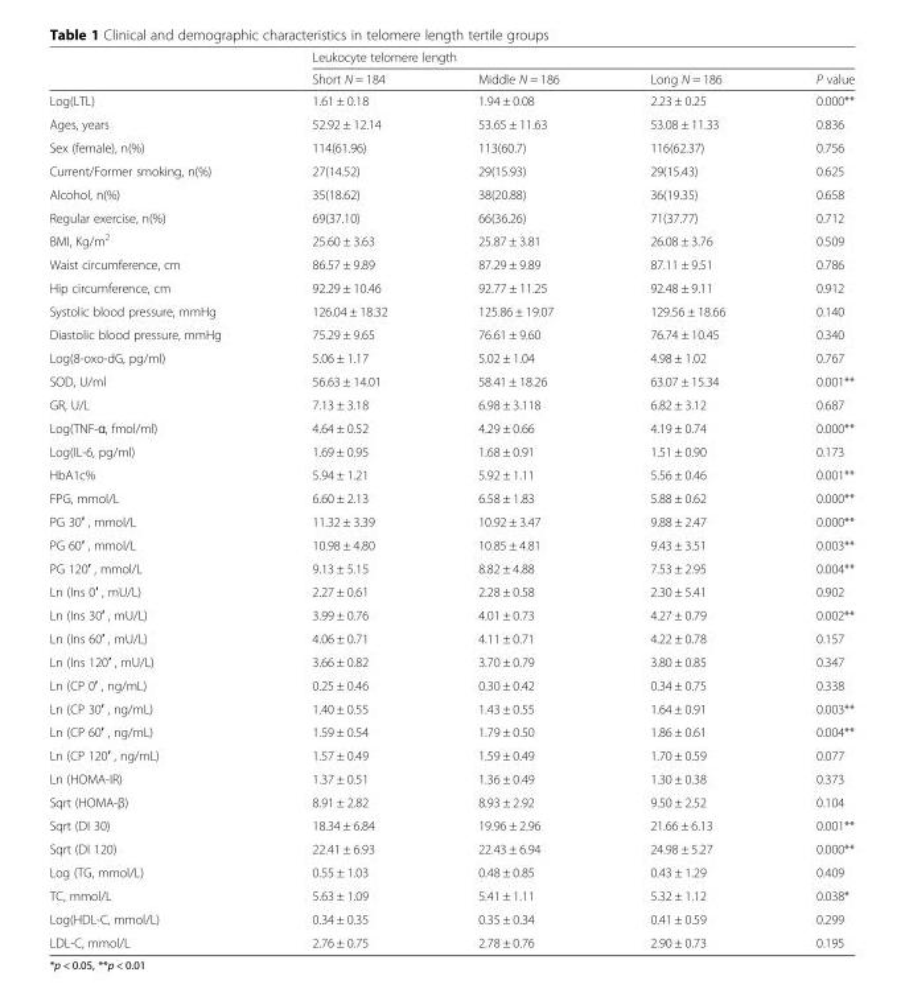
<table><thead><tr><td rowspan="2"></td><td colspan="4">Leukocyte telomere length</td></tr><tr><td>Short N = 184</td><td>Middle N = 186</td><td>Long N = 186</td><td>P value</td></tr></thead><tbody><tr><td>Log(LTL)</td><td>1.61 ± 0.18</td><td>1.94 ± 0.08</td><td>2.23 ± 0.25</td><td>0.000**</td></tr><tr><td>Ages, years</td><td>52.92 ± 12.14</td><td>53.65 ± 11.63</td><td>53.08 ± 11.33</td><td>0.836</td></tr><tr><td>Sex (female), n(%)</td><td>114(61.96)</td><td>113(60.7)</td><td>116(62.37)</td><td>0.756</td></tr><tr><td>Current/Former smoking, n(%)</td><td>27(14.52)</td><td>29(15.93)</td><td>29(15.43)</td><td>0.625</td></tr><tr><td>Alcohol, n(%)</td><td>35(18.62)</td><td>38(20.88)</td><td>36(19.35)</td><td>0.658</td></tr><tr><td>Regular exercise, n(%)</td><td>69(37.10)</td><td>66(36.26)</td><td>71(37.77)</td><td>0.712</td></tr><tr><td>BMI, Kg/m<sup>2</sup></td><td>25.60 ± 3.63</td><td>25.87 ± 3.81</td><td>26.08 ± 3.76</td><td>0.509</td></tr><tr><td>Waist circumference, cm</td><td>86.57 ± 9.89</td><td>87.29 ± 9.89</td><td>87.11 ± 9.51</td><td>0.786</td></tr><tr><td>Hip circumference, cm</td><td>92.29 ± 10.46</td><td>92.77 ± 11.25</td><td>92.48 ± 9.11</td><td>0.912</td></tr><tr><td>Systolic blood pressure, mmHg</td><td>126.04 ± 18.32</td><td>125.86 ± 19.07</td><td>129.56 ± 18.66</td><td>0.140</td></tr><tr><td>Diastolic blood pressure, mmHg</td><td>75.29 ± 9.65</td><td>76.61 ± 9.60</td><td>76.74 ± 10.45</td><td>0.340</td></tr><tr><td>Log(8-oxo-dG, pg/ml)</td><td>5.06 ± 1.17</td><td>5.02 ± 1.04</td><td>4.98 ± 1.02</td><td>0.767</td></tr><tr><td>SOD, U/ml</td><td>56.63 ± 14.01</td><td>58.41 ± 18.26</td><td>63.07 ± 15.34</td><td>0.001**</td></tr><tr><td>GR, U/L</td><td>7.13 ± 3.18</td><td>6.98 ± 3.118</td><td>6.82 ± 3.12</td><td>0.687</td></tr><tr><td>Log(TNF-ɑ, fmol/ml)</td><td>4.64 ± 0.52</td><td>4.29 ± 0.66</td><td>4.19 ± 0.74</td><td>0.000**</td></tr><tr><td>Log(IL-6, pg/ml)</td><td>1.69 ± 0.95</td><td>1.68 ± 0.91</td><td>1.51 ± 0.90</td><td>0.173</td></tr><tr><td>HbA1c%</td><td>5.94 ± 1.21</td><td>5.92 ± 1.11</td><td>5.56 ± 0.46</td><td>0.001**</td></tr><tr><td>FPG, mmol/L</td><td>6.60 ± 2.13</td><td>6.58 ± 1.83</td><td>5.88 ± 0.62</td><td>0.000**</td></tr><tr><td>PG 30′ , mmol/L</td><td>11.32 ± 3.39</td><td>10.92 ± 3.47</td><td>9.88 ± 2.47</td><td>0.000**</td></tr><tr><td>PG 60′ , mmol/L</td><td>10.98 ± 4.80</td><td>10.85 ± 4.81</td><td>9.43 ± 3.51</td><td>0.003**</td></tr><tr><td>PG 120′ , mmol/L</td><td>9.13 ± 5.15</td><td>8.82 ± 4.88</td><td>7.53 ± 2.95</td><td>0.004**</td></tr><tr><td>Ln (Ins 0′ , mU/L)</td><td>2.27 ± 0.61</td><td>2.28 ± 0.58</td><td>2.30 ± 5.41</td><td>0.902</td></tr><tr><td>Ln (Ins 30′ , mU/L)</td><td>3.99 ± 0.76</td><td>4.01 ± 0.73</td><td>4.27 ± 0.79</td><td>0.002**</td></tr><tr><td>Ln (Ins 60′ , mU/L)</td><td>4.06 ± 0.71</td><td>4.11 ± 0.71</td><td>4.22 ± 0.78</td><td>0.157</td></tr><tr><td>Ln (Ins 120′ , mU/L)</td><td>3.66 ± 0.82</td><td>3.70 ± 0.79</td><td>3.80 ± 0.85</td><td>0.347</td></tr><tr><td>Ln (CP 0′ , ng/mL)</td><td>0.25 ± 0.46</td><td>0.30 ± 0.42</td><td>0.34 ± 0.75</td><td>0.338</td></tr><tr><td>Ln (CP 30′ , ng/mL)</td><td>1.40 ± 0.55</td><td>1.43 ± 0.55</td><td>1.64 ± 0.91</td><td>0.003**</td></tr><tr><td>Ln (CP 60′ , ng/mL)</td><td>1.59 ± 0.54</td><td>1.79 ± 0.50</td><td>1.86 ± 0.61</td><td>0.004**</td></tr><tr><td>Ln (CP 120′ , ng/mL)</td><td>1.57 ± 0.49</td><td>1.59 ± 0.49</td><td>1.70 ± 0.59</td><td>0.077</td></tr><tr><td>Ln (HOMA-IR)</td><td>1.37 ± 0.51</td><td>1.36 ± 0.49</td><td>1.30 ± 0.38</td><td>0.373</td></tr><tr><td>Sqrt (HOMA-β)</td><td>8.91 ± 2.82</td><td>8.93 ± 2.92</td><td>9.50 ± 2.52</td><td>0.104</td></tr><tr><td>Sqrt (DI 30)</td><td>18.34 ± 6.84</td><td>19.96 ± 2.96</td><td>21.66 ± 6.13</td><td>0.001**</td></tr><tr><td>Sqrt (DI 120)</td><td>22.41 ± 6.93</td><td>22.43 ± 6.94</td><td>24.98 ± 5.27</td><td>0.000**</td></tr><tr><td>Log (TG, mmol/L)</td><td>0.55 ± 1.03</td><td>0.48 ± 0.85</td><td>0.43 ± 1.29</td><td>0.409</td></tr><tr><td>TC, mmol/L</td><td>5.63 ± 1.09</td><td>5.41 ± 1.11</td><td>5.32 ± 1.12</td><td>0.038*</td></tr><tr><td>Log(HDL-C, mmol/L)</td><td>0.34 ± 0.35</td><td>0.35 ± 0.34</td><td>0.41 ± 0.59</td><td>0.299</td></tr><tr><td>LDL-C, mmol/L</td><td>2.76 ± 0.75</td><td>2.78 ± 0.76</td><td>2.90 ± 0.73</td><td>0.195</td></tr></tbody></table>